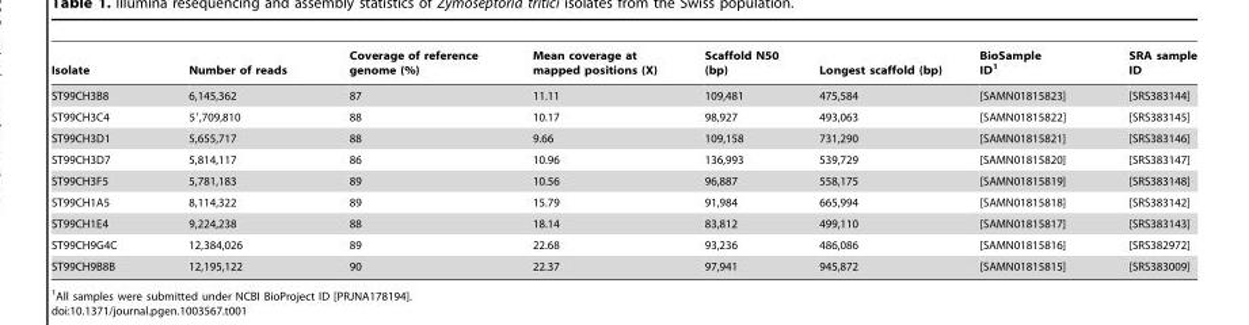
<table><thead><tr><td>Isolate</td><td>Number of reads</td><td>Coverage of reference genome (%)</td><td>Mean coverage at mapped positions (X)</td><td>Scaffold N50 (bp)</td><td>Longest scaffold (bp)</td><td>BioSample ID<sup>1</sup></td><td>SRA sample ID</td></tr></thead><tbody><tr><td>ST99CH3B8</td><td>6,145,362</td><td>87</td><td>11.11</td><td>109,481</td><td>475,584</td><td>[SAMN01815823]</td><td>[SRS383144]</td></tr><tr><td>ST99CH3C4</td><td>5′,709,810</td><td>88</td><td>10.17</td><td>98,927</td><td>493,063</td><td>[SAMN01815822]</td><td>[SRS383145]</td></tr><tr><td>ST99CH3D1</td><td>5,655,717</td><td>88</td><td>9.66</td><td>109,158</td><td>731,290</td><td>[SAMN01815821]</td><td>[SRS383146]</td></tr><tr><td>ST99CH3D7</td><td>5,814,117</td><td>86</td><td>10.96</td><td>136,993</td><td>539,729</td><td>[SAMN01815820]</td><td>[SRS383147]</td></tr><tr><td>ST99CH3F5</td><td>5,781,183</td><td>89</td><td>10.56</td><td>96,887</td><td>558,175</td><td>[SAMN01815819]</td><td>[SRS383148]</td></tr><tr><td>ST99CH1A5</td><td>8,114,322</td><td>89</td><td>15.79</td><td>91,984</td><td>665,994</td><td>[SAMN01815818]</td><td>[SRS383142]</td></tr><tr><td>ST99CH1E4</td><td>9,224,238</td><td>88</td><td>18.14</td><td>83,812</td><td>499,110</td><td>[SAMN01815817]</td><td>[SRS383143]</td></tr><tr><td>ST99CH9G4C</td><td>12,384,026</td><td>89</td><td>22.68</td><td>93,236</td><td>486,086</td><td>[SAMN01815816]</td><td>[SRS382972]</td></tr><tr><td>ST99CH9B8B</td><td>12,195,122</td><td>90</td><td>22.37</td><td>97,941</td><td>945,872</td><td>[SAMN01815815]</td><td>[SRS383009]</td></tr></tbody></table>